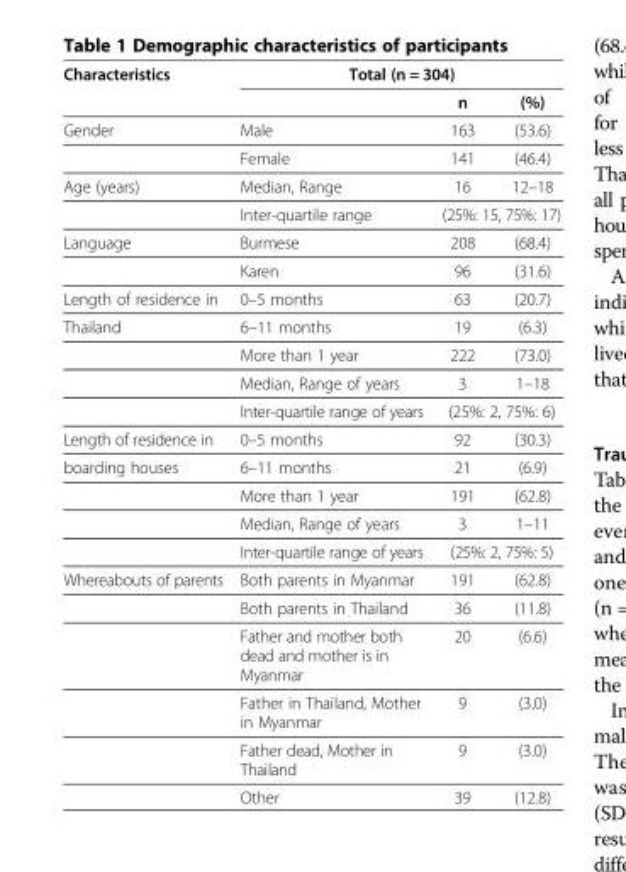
<table><thead><tr><td rowspan="2">Characteristics</td><td colspan="3">Total (n = 304)</td></tr><tr><td></td><td>n</td><td>(%)</td></tr></thead><tbody><tr><td rowspan="2">Gender</td><td>Male</td><td>163</td><td>(53.6)</td></tr><tr><td>Female</td><td>141</td><td>(46.4)</td></tr><tr><td rowspan="2">Age (years)</td><td>Median, Range</td><td>16</td><td>12–18</td></tr><tr><td>Inter-quartile range</td><td colspan="2">(25%: 15, 75%: 17)</td></tr><tr><td rowspan="2">Language</td><td>Burmese</td><td>208</td><td>(68.4)</td></tr><tr><td>Karen</td><td>96</td><td>(31.6)</td></tr><tr><td>Length of residence in</td><td>0–5 months</td><td>63</td><td>(20.7)</td></tr><tr><td rowspan="4">Thailand</td><td>6–11 months</td><td>19</td><td>(6.3)</td></tr><tr><td>More than 1 year</td><td>222</td><td>(73.0)</td></tr><tr><td>Median, Range of years</td><td>3</td><td>1–18</td></tr><tr><td>Inter-quartile range of years</td><td colspan="2">(25%: 2, 75%: 6)</td></tr><tr><td>Length of residence in</td><td>0–5 months</td><td>92</td><td>(30.3)</td></tr><tr><td rowspan="4">boarding houses</td><td>6–11 months</td><td>21</td><td>(6.9)</td></tr><tr><td>More than 1 year</td><td>191</td><td>(62.8)</td></tr><tr><td>Median, Range of years</td><td>3</td><td>1–11</td></tr><tr><td>Inter-quartile range of years</td><td colspan="2">(25%: 2, 75%: 5)</td></tr><tr><td rowspan="6">Whereabouts of parents</td><td>Both parents in Myanmar</td><td>191</td><td>(62.8)</td></tr><tr><td>Both parents in Thailand</td><td>36</td><td>(11.8)</td></tr><tr><td>Father and mother both dead and mother is in Myanmar</td><td>20</td><td>(6.6)</td></tr><tr><td>Father in Thailand, Mother in Myanmar</td><td>9</td><td>(3.0)</td></tr><tr><td>Father dead, Mother in Thailand</td><td>9</td><td>(3.0)</td></tr><tr><td>Other</td><td>39</td><td>(12.8)</td></tr></tbody></table>